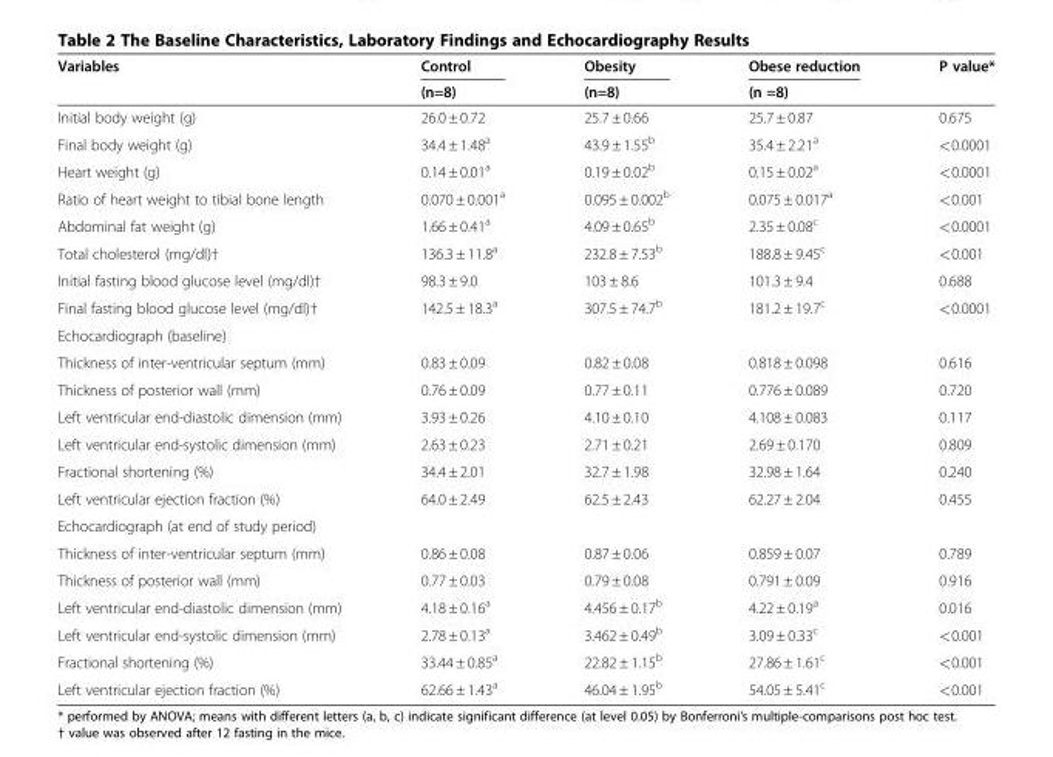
<table><thead><tr><td rowspan="2">Variables</td><td rowspan="2">Control (n=8)</td><td rowspan="2">Obesity (n=8)</td><td rowspan="2">Obese reduction (n =8)</td><td rowspan="2">P value*</td></tr><tr></tr></thead><tbody><tr><td>Initial body weight (g)</td><td>26.0 ± 0.72</td><td>25.7 ± 0.66</td><td>25.7 ± 0.87</td><td>0.675</td></tr><tr><td>Final body weight (g)</td><td>34.4 ± 1.48<sup>a</sup></td><td>43.9 ± 1.55<sup>b</sup></td><td>35.4 ± 2.21<sup>a</sup></td><td>&lt;0.0001</td></tr><tr><td>Heart weight (g)</td><td>0.14 ± 0.01<sup>a</sup></td><td>0.19 ± 0.02<sup>b</sup></td><td>0.15 ± 0.02<sup>a</sup></td><td>&lt;0.0001</td></tr><tr><td>Ratio of heart weight to tibial bone length</td><td>0.070 ± 0.001<sup>a</sup></td><td>0.095 ± 0.002<sup>b</sup></td><td>0.075 ± 0.017<sup>a</sup></td><td>&lt;0.001</td></tr><tr><td>Abdominal fat weight (g)</td><td>1.66 ± 0.41<sup>a</sup></td><td>4.09 ± 0.65<sup>b</sup></td><td>2.35 ± 0.08<sup>c</sup></td><td>&lt;0.0001</td></tr><tr><td>Total cholesterol (mg/dl)†</td><td>136.3 ± 11.8<sup>a</sup></td><td>232.8 ± 7.53<sup>b</sup></td><td>188.8 ± 9.45<sup>c</sup></td><td>&lt;0.001</td></tr><tr><td>Initial fasting blood glucose level (mg/dl)†</td><td>98.3 ± 9.0</td><td>103 ± 8.6</td><td>101.3 ± 9.4</td><td>0.688</td></tr><tr><td>Final fasting blood glucose level (mg/dl)†</td><td>142.5 ± 18.3<sup>a</sup></td><td>307.5 ± 74.7<sup>b</sup></td><td>181.2 ± 19.7<sup>c</sup></td><td>&lt;0.0001</td></tr><tr><td colspan="5">Echocardiograph (baseline)</td></tr><tr><td>Thickness of inter-ventricular septum (mm)</td><td>0.83 ± 0.09</td><td>0.82 ± 0.08</td><td>0.818 ± 0.098</td><td>0.616</td></tr><tr><td>Thickness of posterior wall (mm)</td><td>0.76 ± 0.09</td><td>0.77 ± 0.11</td><td>0.776 ± 0.089</td><td>0.720</td></tr><tr><td>Left ventricular end-diastolic dimension (mm)</td><td>3.93 ± 0.26</td><td>4.10 ± 0.10</td><td>4.108 ± 0.083</td><td>0.117</td></tr><tr><td>Left ventricular end-systolic dimension (mm)</td><td>2.63 ± 0.23</td><td>2.71 ± 0.21</td><td>2.69 ± 0.170</td><td>0.809</td></tr><tr><td>Fractional shortening (%)</td><td>34.4 ± 2.01</td><td>32.7 ± 1.98</td><td>32.98 ± 1.64</td><td>0.240</td></tr><tr><td>Left ventricular ejection fraction (%)</td><td>64.0 ± 2.49</td><td>62.5 ± 2.43</td><td>62.27 ± 2.04</td><td>0.455</td></tr><tr><td colspan="5">Echocardiograph (at end of study period)</td></tr><tr><td>Thickness of inter-ventricular septum (mm)</td><td>0.86 ± 0.08</td><td>0.87 ± 0.06</td><td>0.859 ± 0.07</td><td>0.789</td></tr><tr><td>Thickness of posterior wall (mm)</td><td>0.77 ± 0.03</td><td>0.79 ± 0.08</td><td>0.791 ± 0.09</td><td>0.916</td></tr><tr><td>Left ventricular end-diastolic dimension (mm)</td><td>4.18 ± 0.16<sup>a</sup></td><td>4.456 ± 0.17<sup>b</sup></td><td>4.22 ± 0.19<sup>a</sup></td><td>0.016</td></tr><tr><td>Left ventricular end-systolic dimension (mm)</td><td>2.78 ± 0.13<sup>a</sup></td><td>3.462 ± 0.49<sup>b</sup></td><td>3.09 ± 0.33<sup>c</sup></td><td>&lt;0.001</td></tr><tr><td>Fractional shortening (%)</td><td>33.44 ± 0.85<sup>a</sup></td><td>22.82 ± 1.15<sup>b</sup></td><td>27.86 ± 1.61<sup>c</sup></td><td>&lt;0.001</td></tr><tr><td>Left ventricular ejection fraction (%)</td><td>62.66 ± 1.43<sup>a</sup></td><td>46.04 ± 1.95<sup>b</sup></td><td>54.05 ± 5.41<sup>c</sup></td><td>&lt;0.001</td></tr></tbody></table>